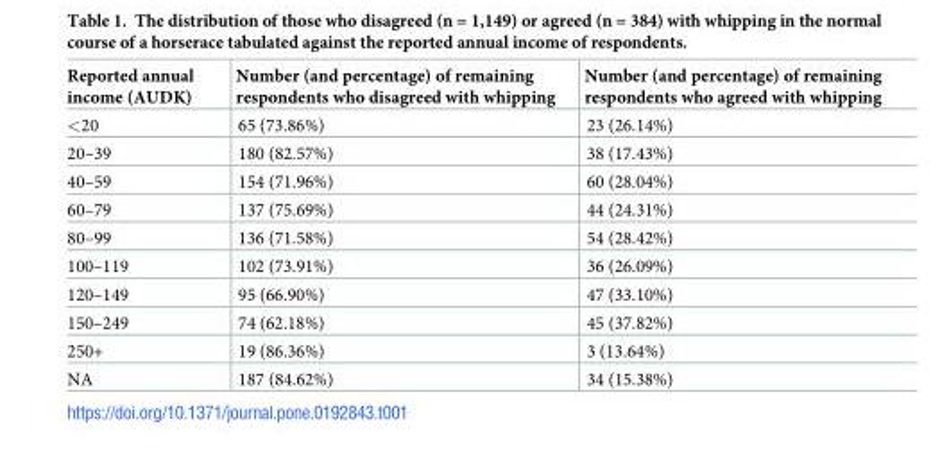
<table><thead><tr><td>Reported annual income (AUDK)</td><td>Number (and percentage) of remaining respondents who disagreed with whipping</td><td>Number (and percentage) of remaining respondents who agreed with whipping</td></tr></thead><tbody><tr><td>&lt;20</td><td>65 (73.86%)</td><td>23 (26.14%)</td></tr><tr><td>20–39</td><td>180 (82.57%)</td><td>38 (17.43%)</td></tr><tr><td>40–59</td><td>154 (71.96%)</td><td>60 (28.04%)</td></tr><tr><td>60–79</td><td>137 (75.69%)</td><td>44 (24.31%)</td></tr><tr><td>80–99</td><td>136 (71.58%)</td><td>54 (28.42%)</td></tr><tr><td>100–119</td><td>102 (73.91%)</td><td>36 (26.09%)</td></tr><tr><td>120–149</td><td>95 (66.90%)</td><td>47 (33.10%)</td></tr><tr><td>150–249</td><td>74 (62.18%)</td><td>45 (37.82%)</td></tr><tr><td>250+</td><td>19 (86.36%)</td><td>3 (13.64%)</td></tr><tr><td>NA</td><td>187 (84.62%)</td><td>34 (15.38%)</td></tr></tbody></table>